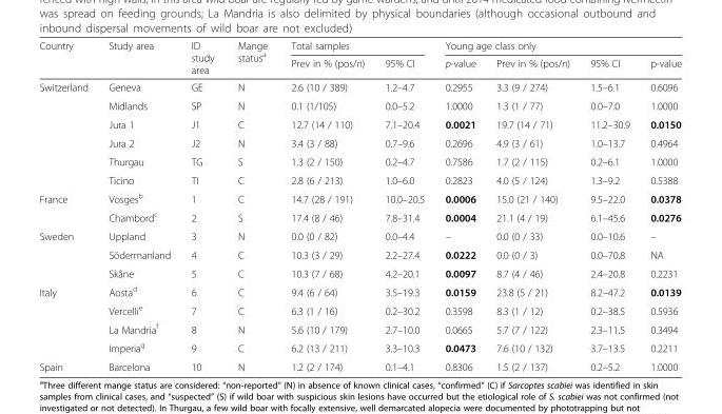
<table><thead><tr><td rowspan="2">Country</td><td rowspan="2">Study area</td><td rowspan="2">ID study area</td><td rowspan="2">Mange status<sup>a</sup></td><td colspan="2">Total samples</td><td colspan="4">Young age class only</td></tr><tr><td>Prev in % (pos/n)</td><td>95% CI</td><td>p-value</td><td>Prev in % (pos/n)</td><td>95% CI</td><td>p-value</td></tr></thead><tbody><tr><td rowspan="6">Switzerland</td><td>Geneva</td><td>GE</td><td>N</td><td>2.6 (10 / 389)</td><td>1.2–4.7</td><td>0.2955</td><td>3.3 (9 / 274)</td><td>1.5–6.1</td><td>0.6096</td></tr><tr><td>Midlands</td><td>SP</td><td>N</td><td>0.1 (1/105)</td><td>0.0–5.2</td><td>1.0000</td><td>1.3 (1 / 77)</td><td>0.0–7.0</td><td>1.0000</td></tr><tr><td>Jura 1</td><td>J1</td><td>C</td><td>12.7 (14 / 110)</td><td>7.1–20.4</td><td>0.0021</td><td>19.7 (14 / 71)</td><td>11.2–30.9</td><td>0.0150</td></tr><tr><td>Jura 2</td><td>J2</td><td>N</td><td>3.4 (3 / 88)</td><td>0.7–9.6</td><td>0.2696</td><td>4.9 (3 / 61)</td><td>1.0–13.7</td><td>0.4964</td></tr><tr><td>Thurgau</td><td>TG</td><td>S</td><td>1.3 (2 / 150)</td><td>0.2–4.7</td><td>0.7586</td><td>1.7 (2 / 115)</td><td>0.2–6.1</td><td>1.0000</td></tr><tr><td>Ticino</td><td>TI</td><td>C</td><td>2.8 (6 / 213)</td><td>1.0–6.0</td><td>0.2823</td><td>4.0 (5 / 124)</td><td>1.3–9.2</td><td>0.5388</td></tr><tr><td rowspan="2">France</td><td>Vosges<sup>b</sup></td><td>1</td><td>C</td><td>14.7 (28 / 191)</td><td>10.0–20.5</td><td>0.0006</td><td>15.0 (21 / 140)</td><td>9.5–22.0</td><td>0.0378</td></tr><tr><td>Chambord<sup>c</sup></td><td>2</td><td>S</td><td>17.4 (8 / 46)</td><td>7.8–31.4</td><td>0.0004</td><td>21.1 (4 / 19)</td><td>6.1–45.6</td><td>0.0276</td></tr><tr><td rowspan="3">Sweden</td><td>Uppland</td><td>3</td><td>N</td><td>0.0 (0 / 82)</td><td>0.0–4.4</td><td>–</td><td>0.0 (0 / 33)</td><td>0.0–10.6</td><td>–</td></tr><tr><td>Södermanland</td><td>4</td><td>C</td><td>10.3 (3 / 29)</td><td>2.2–27.4</td><td>0.0222</td><td>0.0 (0 / 3)</td><td>0.0–70.8</td><td>NA</td></tr><tr><td>Skåne</td><td>5</td><td>C</td><td>10.3 (7 / 68)</td><td>4.2–20.1</td><td>0.0097</td><td>8.7 (4 / 46)</td><td>2.4–20.8</td><td>0.2231</td></tr><tr><td rowspan="4">Italy</td><td>Aosta<sup>d</sup></td><td>6</td><td>C</td><td>9.4 (6 / 64)</td><td>3.5–19.3</td><td>0.0159</td><td>23.8 (5 / 21)</td><td>8.2–47.2</td><td>0.0139</td></tr><tr><td>Vercelli<sup>e</sup></td><td>7</td><td>C</td><td>6.3 (1 / 16)</td><td>0.2–30.2</td><td>0.3598</td><td>8.3 (1 / 12)</td><td>0.2–38.5</td><td>0.5936</td></tr><tr><td>La Mandria<sup>f</sup></td><td>8</td><td>N</td><td>5.6 (10 / 179)</td><td>2.7–10.0</td><td>0.0665</td><td>5.7 (7 / 122)</td><td>2.3–11.5</td><td>0.3494</td></tr><tr><td>Imperia<sup>g</sup></td><td>9</td><td>C</td><td>6.2 (13 / 211)</td><td>3.3–10.3</td><td>0.0473</td><td>7.6 (10 / 132)</td><td>3.7–13.5</td><td>0.2211</td></tr><tr><td>Spain</td><td>Barcelona</td><td>10</td><td>N</td><td>1.2 (2 / 174)</td><td>0.1–4.1</td><td>0.8306</td><td>1.5 (2 / 137)</td><td>0.2–5.2</td><td>1.0000</td></tr></tbody></table>